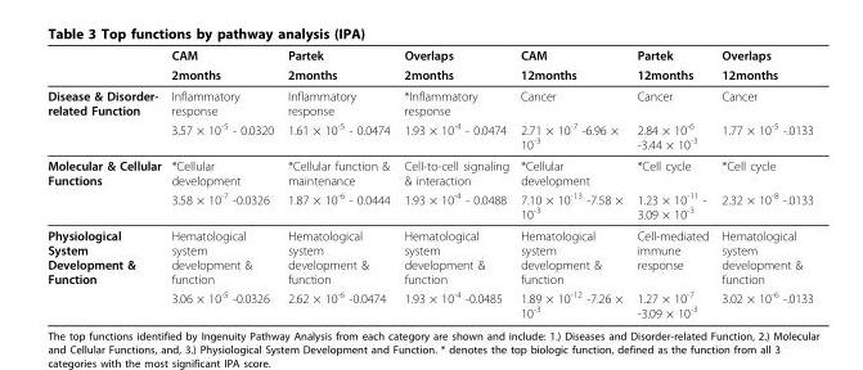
<table><thead><tr><td rowspan="2"></td><td rowspan="2">CAM 2months</td><td rowspan="2">Partek 2months</td><td rowspan="2">Overlaps 2months</td><td rowspan="2">CAM 12months</td><td rowspan="2">Partek 12months</td><td rowspan="2">Overlaps 12months</td></tr><tr></tr></thead><tbody><tr><td rowspan="2">Disease &amp; Disorder- related Function</td><td>Inflammatory response</td><td>Inflammatory response</td><td>*Inflammatory response</td><td>Cancer</td><td>Cancer</td><td>Cancer</td></tr><tr><td>3.57 × 10<sup>-5</sup> - 0.0320</td><td>1.61 × 10<sup>-5</sup> - 0.0474</td><td>1.93 × 10<sup>-4</sup> - 0.0474</td><td>2.71 × 10<sup>-7</sup> -6.96 × 10<sup>-3</sup></td><td>2.84 × 10<sup>-6</sup> -3.44 × 10<sup>-3</sup></td><td>1.77 × 10<sup>-5</sup> -.0133</td></tr><tr><td rowspan="2">Molecular &amp; Cellular Functions</td><td>*Cellular development</td><td>*Cellular function &amp; maintenance</td><td>Cell-to-cell signaling &amp; interaction</td><td>*Cellular development</td><td>*Cell cycle</td><td>*Cell cycle</td></tr><tr><td>3.58 × 10<sup>-7</sup> -0.0326</td><td>1.87 × 10<sup>-6</sup> - 0.0444</td><td>1.93 × 10<sup>-4</sup> - 0.0488</td><td>7.10 × 10<sup>-13</sup> -7.58 × 10<sup>-3</sup></td><td>1.23 × 10<sup>-11</sup> - 3.09 × 10<sup>-3</sup></td><td>2.32 × 10<sup>-8</sup> -.0133</td></tr><tr><td rowspan="2">Physiological System Development &amp; Function</td><td>Hematological system development &amp; function</td><td>Hematological system development &amp; function</td><td>Hematological system development &amp; function</td><td>Hematological system development &amp; function</td><td>Cell-mediated immune response</td><td>Hematological system development &amp; function</td></tr><tr><td>3.06 × 10<sup>-5</sup> -0.0326</td><td>2.62 × 10<sup>-6</sup> -0.0474</td><td>1.93 × 10<sup>-4</sup> -0.0485</td><td>1.89 × 10<sup>-12</sup> -7.26 × 10<sup>-3</sup></td><td>1.27 × 10<sup>-7</sup> -3.09 × 10<sup>-3</sup></td><td>3.02 × 10<sup>-6</sup> -.0133</td></tr></tbody></table>